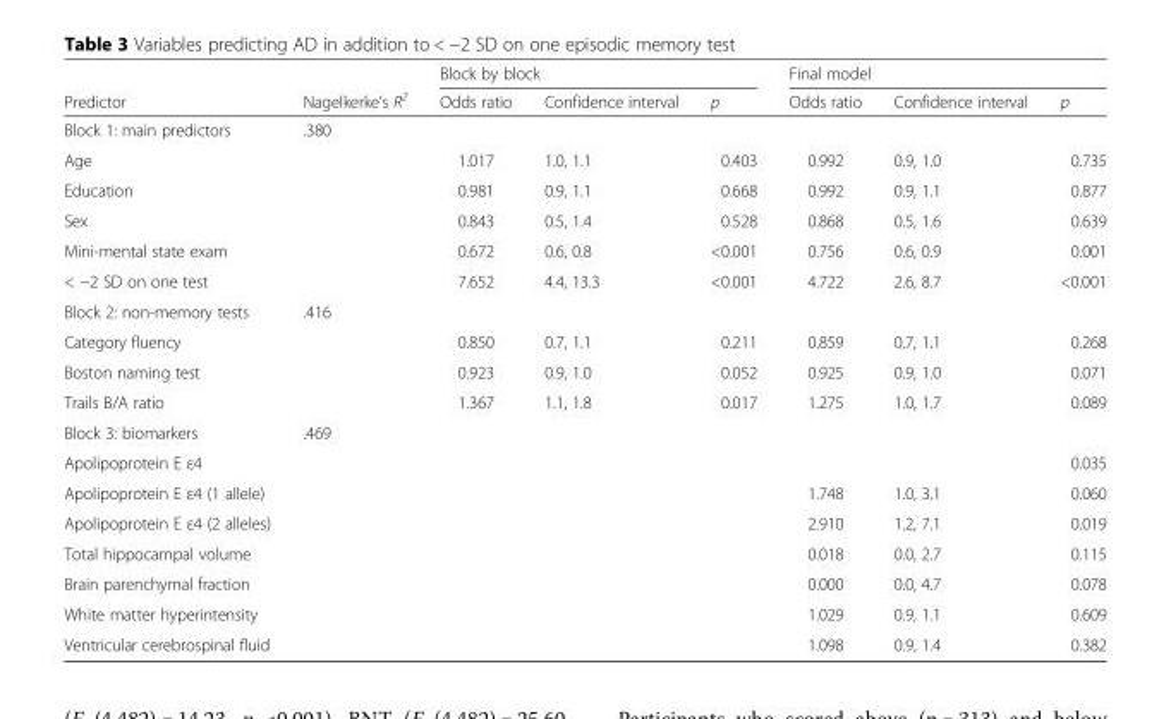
<table><thead><tr><td rowspan="2">Predictor</td><td rowspan="2">Nagelkerke’s R<sup>2</sup></td><td colspan="3">Block by block</td><td colspan="3">Final model</td></tr><tr><td>Odds ratio</td><td>Confidence interval</td><td>p</td><td>Odds ratio</td><td>Confidence interval</td><td>p</td></tr></thead><tbody><tr><td>Block 1: main predictors</td><td>.380</td><td></td><td></td><td></td><td></td><td></td><td></td></tr><tr><td>Age</td><td></td><td>1.017</td><td>1.0, 1.1</td><td>0.403</td><td>0.992</td><td>0.9, 1.0</td><td>0.735</td></tr><tr><td>Education</td><td></td><td>0.981</td><td>0.9, 1.1</td><td>0.668</td><td>0.992</td><td>0.9, 1.1</td><td>0.877</td></tr><tr><td>Sex</td><td></td><td>0.843</td><td>0.5, 1.4</td><td>0.528</td><td>0.868</td><td>0.5, 1.6</td><td>0.639</td></tr><tr><td>Mini-mental state exam</td><td></td><td>0.672</td><td>0.6, 0.8</td><td>&lt;0.001</td><td>0.756</td><td>0.6, 0.9</td><td>0.001</td></tr><tr><td>&lt; −2 SD on one test</td><td></td><td>7.652</td><td>4.4, 13.3</td><td>&lt;0.001</td><td>4.722</td><td>2.6, 8.7</td><td>&lt;0.001</td></tr><tr><td>Block 2: non-memory tests</td><td>.416</td><td></td><td></td><td></td><td></td><td></td><td></td></tr><tr><td>Category fluency</td><td></td><td>0.850</td><td>0.7, 1.1</td><td>0.211</td><td>0.859</td><td>0.7, 1.1</td><td>0.268</td></tr><tr><td>Boston naming test</td><td></td><td>0.923</td><td>0.9, 1.0</td><td>0.052</td><td>0.925</td><td>0.9, 1.0</td><td>0.071</td></tr><tr><td>Trails B/A ratio</td><td></td><td>1.367</td><td>1.1, 1.8</td><td>0.017</td><td>1.275</td><td>1.0, 1.7</td><td>0.089</td></tr><tr><td>Block 3: biomarkers</td><td>.469</td><td></td><td></td><td></td><td></td><td></td><td></td></tr><tr><td>Apolipoprotein E ε4</td><td></td><td></td><td></td><td></td><td></td><td></td><td>0.035</td></tr><tr><td>Apolipoprotein E ε4 (1 allele)</td><td></td><td></td><td></td><td></td><td>1.748</td><td>1.0, 3.1</td><td>0.060</td></tr><tr><td>Apolipoprotein E ε4 (2 alleles)</td><td></td><td></td><td></td><td></td><td>2.910</td><td>1.2, 7.1</td><td>0.019</td></tr><tr><td>Total hippocampal volume</td><td></td><td></td><td></td><td></td><td>0.018</td><td>0.0, 2.7</td><td>0.115</td></tr><tr><td>Brain parenchymal fraction</td><td></td><td></td><td></td><td></td><td>0.000</td><td>0.0, 4.7</td><td>0.078</td></tr><tr><td>White matter hyperintensity</td><td></td><td></td><td></td><td></td><td>1.029</td><td>0.9, 1.1</td><td>0.609</td></tr><tr><td>Ventricular cerebrospinal fluid</td><td></td><td></td><td></td><td></td><td>1.098</td><td>0.9, 1.4</td><td>0.382</td></tr></tbody></table>